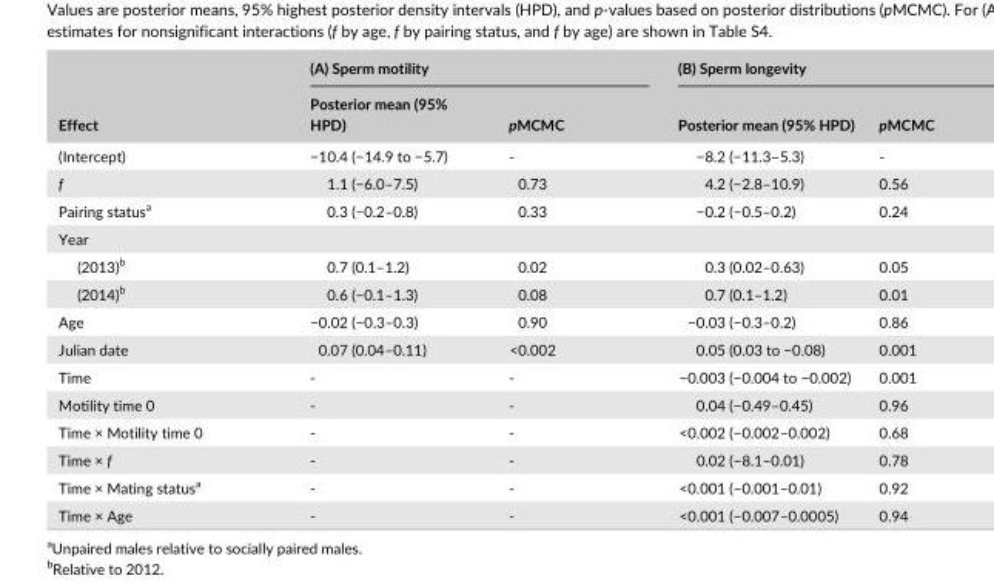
<table><thead><tr><td rowspan="2">Effect</td><td colspan="2">(A) Sperm motility</td><td colspan="2">(B) Sperm longevity</td></tr><tr><td>Posterior mean (95% HPD)</td><td>pMCMC</td><td>Posterior mean (95% HPD)</td><td>pMCMC</td></tr></thead><tbody><tr><td>(Intercept)</td><td>−10.4 (−14.9 to −5.7)</td><td>-</td><td>−8.2 (−11.3–5.3)</td><td>-</td></tr><tr><td>f</td><td>1.1 (−6.0–7.5)</td><td>0.73</td><td>4.2 (−2.8–10.9)</td><td>0.56</td></tr><tr><td>Pairing status<sup>a</sup></td><td>0.3 (−0.2–0.8)</td><td>0.33</td><td>−0.2 (−0.5–0.2)</td><td>0.24</td></tr><tr><td colspan="5">Year</td></tr><tr><td>(2013)<sup>b</sup></td><td>0.7 (0.1–1.2)</td><td>0.02</td><td>0.3 (0.02–0.63)</td><td>0.05</td></tr><tr><td>(2014)<sup>b</sup></td><td>0.6 (−0.1–1.3)</td><td>0.08</td><td>0.7 (0.1–1.2)</td><td>0.01</td></tr><tr><td>Age</td><td>−0.02 (−0.3–0.3)</td><td>0.90</td><td>−0.03 (−0.3–0.2)</td><td>0.86</td></tr><tr><td>Julian date</td><td>0.07 (0.04–0.11)</td><td>&lt;0.002</td><td>0.05 (0.03 to −0.08)</td><td>0.001</td></tr><tr><td>Time</td><td>-</td><td>-</td><td>−0.003 (−0.004 to −0.002)</td><td>0.001</td></tr><tr><td>Motility time 0</td><td>-</td><td>-</td><td>0.04 (−0.49–0.45)</td><td>0.96</td></tr><tr><td>Time × Motility time 0</td><td>-</td><td>-</td><td>&lt;0.002 (−0.002–0.002)</td><td>0.68</td></tr><tr><td>Time × f</td><td>-</td><td>-</td><td>0.02 (−8.1–0.01)</td><td>0.78</td></tr><tr><td>Time × Mating status<sup>a</sup></td><td>-</td><td>-</td><td>&lt;0.001 (−0.001–0.01)</td><td>0.92</td></tr><tr><td>Time × Age</td><td>-</td><td>-</td><td>&lt;0.001 (−0.007–0.0005)</td><td>0.94</td></tr></tbody></table>